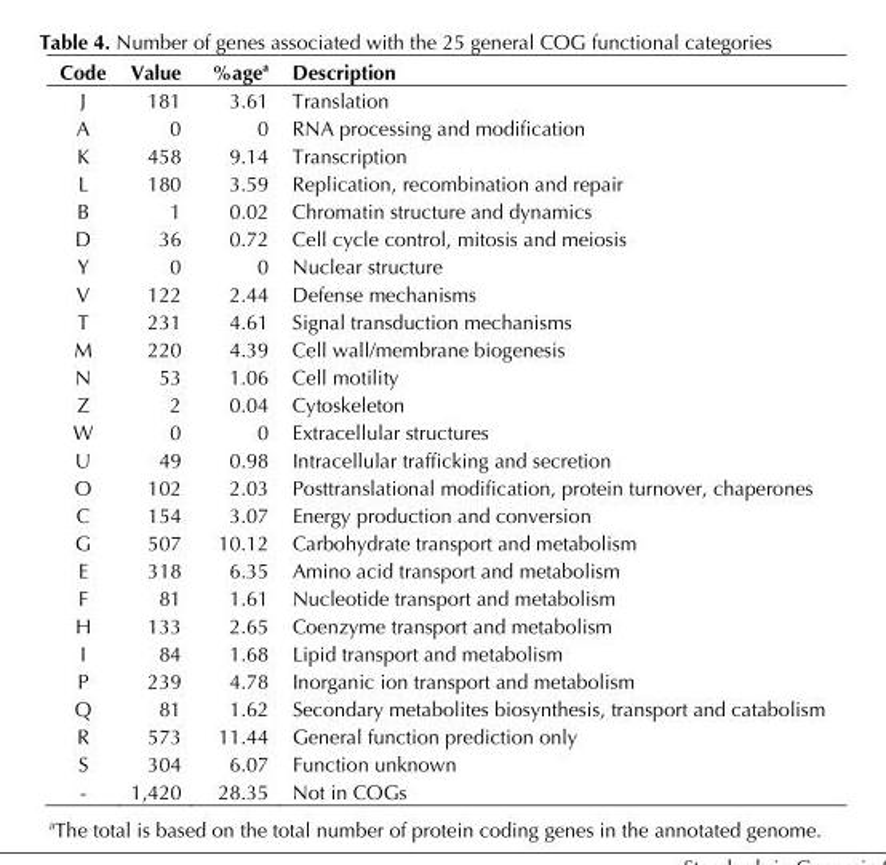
<table><thead><tr><td>Code</td><td>Value</td><td>%age<sup>a</sup></td><td>Description</td></tr></thead><tbody><tr><td>J</td><td>181</td><td>3.61</td><td>Translation</td></tr><tr><td>A</td><td>0</td><td>0</td><td>RNA processing and modification</td></tr><tr><td>K</td><td>458</td><td>9.14</td><td>Transcription</td></tr><tr><td>L</td><td>180</td><td>3.59</td><td>Replication, recombination and repair</td></tr><tr><td>B</td><td>1</td><td>0.02</td><td>Chromatin structure and dynamics</td></tr><tr><td>D</td><td>36</td><td>0.72</td><td>Cell cycle control, mitosis and meiosis</td></tr><tr><td>Y</td><td>0</td><td>0</td><td>Nuclear structure</td></tr><tr><td>V</td><td>122</td><td>2.44</td><td>Defense mechanisms</td></tr><tr><td>T</td><td>231</td><td>4.61</td><td>Signal transduction mechanisms</td></tr><tr><td>M</td><td>220</td><td>4.39</td><td>Cell wall/membrane biogenesis</td></tr><tr><td>N</td><td>53</td><td>1.06</td><td>Cell motility</td></tr><tr><td>Z</td><td>2</td><td>0.04</td><td>Cytoskeleton</td></tr><tr><td>W</td><td>0</td><td>0</td><td>Extracellular structures</td></tr><tr><td>U</td><td>49</td><td>0.98</td><td>Intracellular trafficking and secretion</td></tr><tr><td>O</td><td>102</td><td>2.03</td><td>Posttranslational modification, protein turnover, chaperones</td></tr><tr><td>C</td><td>154</td><td>3.07</td><td>Energy production and conversion</td></tr><tr><td>G</td><td>507</td><td>10.12</td><td>Carbohydrate transport and metabolism</td></tr><tr><td>E</td><td>318</td><td>6.35</td><td>Amino acid transport and metabolism</td></tr><tr><td>F</td><td>81</td><td>1.61</td><td>Nucleotide transport and metabolism</td></tr><tr><td>H</td><td>133</td><td>2.65</td><td>Coenzyme transport and metabolism</td></tr><tr><td>I</td><td>84</td><td>1.68</td><td>Lipid transport and metabolism</td></tr><tr><td>P</td><td>239</td><td>4.78</td><td>Inorganic ion transport and metabolism</td></tr><tr><td>Q</td><td>81</td><td>1.62</td><td>Secondary metabolites biosynthesis, transport and catabolism</td></tr><tr><td>R</td><td>573</td><td>11.44</td><td>General function prediction only</td></tr><tr><td>S</td><td>304</td><td>6.07</td><td>Function unknown</td></tr><tr><td>-</td><td>1,420</td><td>28.35</td><td>Not in COGs</td></tr></tbody></table>